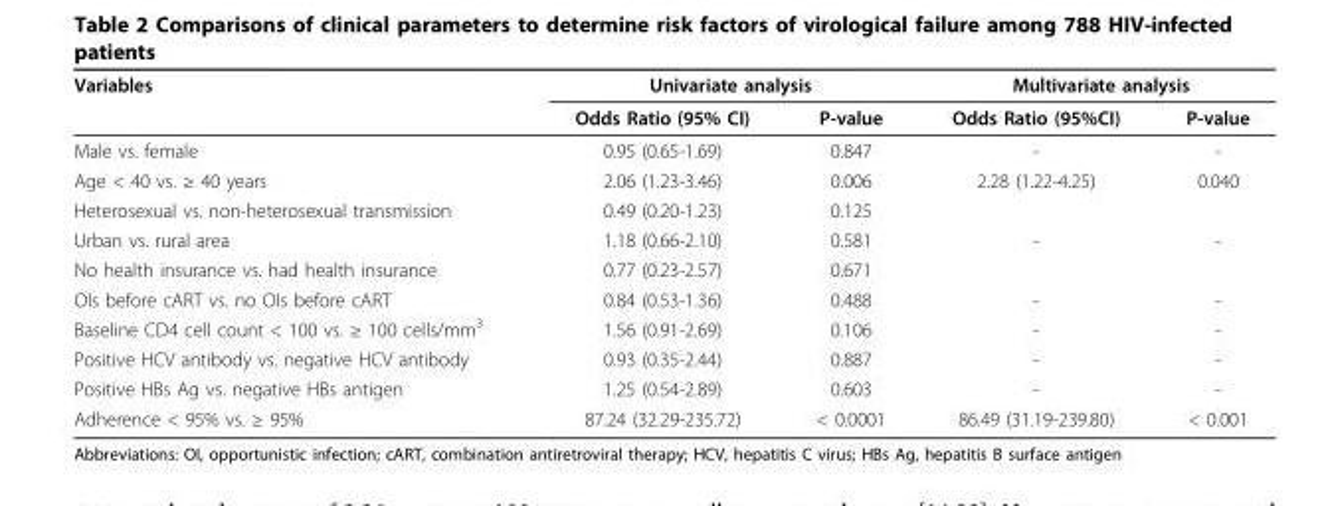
<table><thead><tr><td rowspan="2">Variables</td><td colspan="2">Univariate analysis</td><td colspan="2">Multivariate analysis</td></tr><tr><td>Odds Ratio (95% CI)</td><td>P-value</td><td>Odds Ratio (95%CI)</td><td>P-value</td></tr></thead><tbody><tr><td>Male vs. female</td><td>0.95 (0.65-1.69)</td><td>0.847</td><td>-</td><td>-</td></tr><tr><td>Age &lt; 40 vs. ≥ 40 years</td><td>2.06 (1.23-3.46)</td><td>0.006</td><td>2.28 (1.22-4.25)</td><td>0.040</td></tr><tr><td>Heterosexual vs. non-heterosexual transmission</td><td>0.49 (0.20-1.23)</td><td>0.125</td><td></td><td></td></tr><tr><td>Urban vs. rural area</td><td>1.18 (0.66-2.10)</td><td>0.581</td><td>-</td><td>-</td></tr><tr><td>No health insurance vs. had health insurance</td><td>0.77 (0.23-2.57)</td><td>0.671</td><td></td><td></td></tr><tr><td>OIs before cART vs. no OIs before cART</td><td>0.84 (0.53-1.36)</td><td>0.488</td><td>-</td><td>-</td></tr><tr><td>Baseline CD4 cell count &lt; 100 vs. ≥ 100 cells/mm<sup>3</sup></td><td>1.56 (0.91-2.69)</td><td>0.106</td><td>-</td><td>-</td></tr><tr><td>Positive HCV antibody vs. negative HCV antibody</td><td>0.93 (0.35-2.44)</td><td>0.887</td><td>-</td><td>-</td></tr><tr><td>Positive HBs Ag vs. negative HBs antigen</td><td>1.25 (0.54-2.89)</td><td>0.603</td><td>-</td><td>-</td></tr><tr><td>Adherence &lt; 95% vs. ≥ 95%</td><td>87.24 (32.29-235.72)</td><td>&lt; 0.0001</td><td>86.49 (31.19-239.80)</td><td>&lt; 0.001</td></tr></tbody></table>